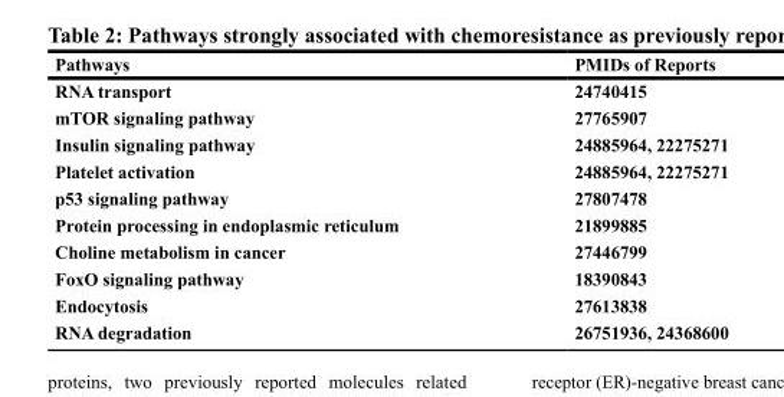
<table><thead><tr><td>Pathways</td><td>PMIDs of Reports</td></tr></thead><tbody><tr><td>RNA transport</td><td>24740415</td></tr><tr><td>mTOR signaling pathway</td><td>27765907</td></tr><tr><td>Insulin signaling pathway</td><td>24885964, 22275271</td></tr><tr><td>Platelet activation</td><td>24885964, 22275271</td></tr><tr><td>p53 signaling pathway</td><td>27807478</td></tr><tr><td>Protein processing in endoplasmic reticulum</td><td>21899885</td></tr><tr><td>Choline metabolism in cancer</td><td>27446799</td></tr><tr><td>FoxO signaling pathway</td><td>18390843</td></tr><tr><td>Endocytosis</td><td>27613838</td></tr><tr><td>RNA degradation</td><td>26751936, 24368600</td></tr></tbody></table>